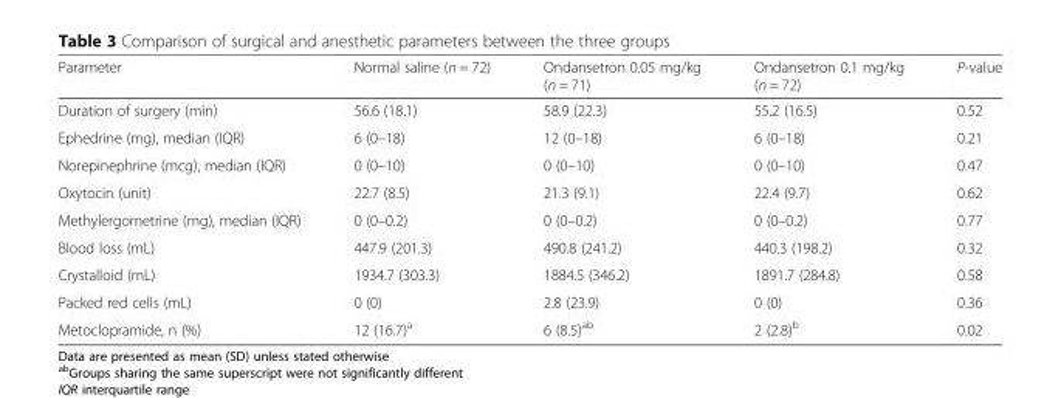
<table><thead><tr><td>Parameter</td><td>Normal saline (n = 72)</td><td>Ondansetron 0.05 mg/kg (n = 71)</td><td>Ondansetron 0.1 mg/kg (n = 72)</td><td>P-value</td></tr></thead><tbody><tr><td>Duration of surgery (min)</td><td>56.6 (18.1)</td><td>58.9 (22.3)</td><td>55.2 (16.5)</td><td>0.52</td></tr><tr><td>Ephedrine (mg), median (IQR)</td><td>6 (0–18)</td><td>12 (0–18)</td><td>6 (0–18)</td><td>0.21</td></tr><tr><td>Norepinephrine (mcg), median (IQR)</td><td>0 (0–10)</td><td>0 (0–10)</td><td>0 (0–10)</td><td>0.47</td></tr><tr><td>Oxytocin (unit)</td><td>22.7 (8.5)</td><td>21.3 (9.1)</td><td>22.4 (9.7)</td><td>0.62</td></tr><tr><td>Methylergometrine (mg), median (IQR)</td><td>0 (0–0.2)</td><td>0 (0–0.2)</td><td>0 (0–0.2)</td><td>0.77</td></tr><tr><td>Blood loss (mL)</td><td>447.9 (201.3)</td><td>490.8 (241.2)</td><td>440.3 (198.2)</td><td>0.32</td></tr><tr><td>Crystalloid (mL)</td><td>1934.7 (303.3)</td><td>1884.5 (346.2)</td><td>1891.7 (284.8)</td><td>0.58</td></tr><tr><td>Packed red cells (mL)</td><td>0 (0)</td><td>2.8 (23.9)</td><td>0 (0)</td><td>0.36</td></tr><tr><td>Metoclopramide, n (%)</td><td>12 (16.7)<sup>a</sup></td><td>6 (8.5)<sup>ab</sup></td><td>2 (2.8)<sup>b</sup></td><td>0.02</td></tr></tbody></table>